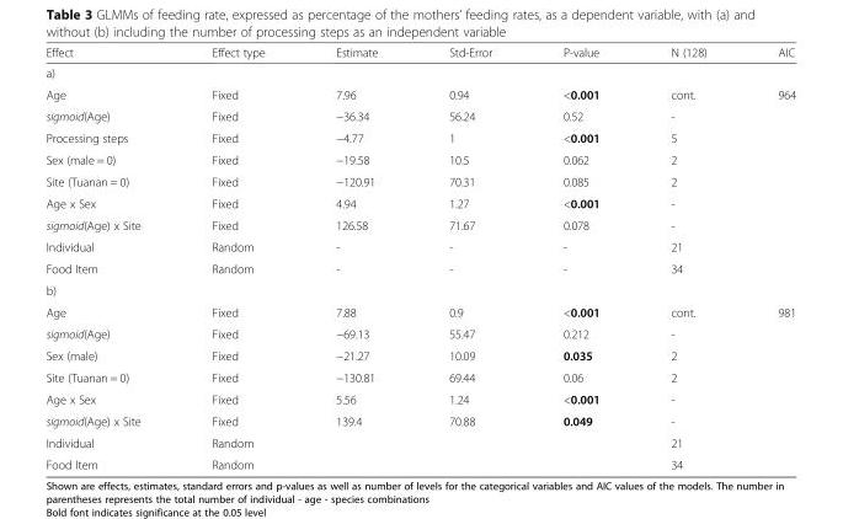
<table><thead><tr><td>Effect</td><td>Effect type</td><td>Estimate</td><td>Std-Error</td><td>P-value</td><td>N (128)</td><td>AIC</td></tr></thead><tbody><tr><td colspan="7">a)</td></tr><tr><td>Age</td><td>Fixed</td><td>7.96</td><td>0.94</td><td>&lt;0.001</td><td>cont.</td><td rowspan="9">964</td></tr><tr><td>sigmoid(Age)</td><td>Fixed</td><td>−36.34</td><td>56.24</td><td>0.52</td><td>-</td></tr><tr><td>Processing steps</td><td>Fixed</td><td>−4.77</td><td>1</td><td>&lt;0.001</td><td>5</td></tr><tr><td>Sex (male = 0)</td><td>Fixed</td><td>−19.58</td><td>10.5</td><td>0.062</td><td>2</td></tr><tr><td>Site (Tuanan = 0)</td><td>Fixed</td><td>−120.91</td><td>70.31</td><td>0.085</td><td>2</td></tr><tr><td>Age x Sex</td><td>Fixed</td><td>4.94</td><td>1.27</td><td>&lt;0.001</td><td>-</td></tr><tr><td>sigmoid(Age) x Site</td><td>Fixed</td><td>126.58</td><td>71.67</td><td>0.078</td><td>-</td></tr><tr><td>Individual</td><td>Random</td><td>-</td><td>-</td><td>-</td><td>21</td></tr><tr><td>Food Item</td><td>Random</td><td>-</td><td>-</td><td>-</td><td>34</td></tr><tr><td colspan="7">b)</td></tr><tr><td>Age</td><td>Fixed</td><td>7.88</td><td>0.9</td><td>&lt;0.001</td><td>cont.</td><td rowspan="8">981</td></tr><tr><td>sigmoid(Age)</td><td>Fixed</td><td>−69.13</td><td>55.47</td><td>0.212</td><td>-</td></tr><tr><td>Sex (male)</td><td>Fixed</td><td>−21.27</td><td>10.09</td><td>0.035</td><td>2</td></tr><tr><td>Site (Tuanan = 0)</td><td>Fixed</td><td>−130.81</td><td>69.44</td><td>0.06</td><td>2</td></tr><tr><td>Age x Sex</td><td>Fixed</td><td>5.56</td><td>1.24</td><td>&lt;0.001</td><td>-</td></tr><tr><td>sigmoid(Age) x Site</td><td>Fixed</td><td>139.4</td><td>70.88</td><td>0.049</td><td>-</td></tr><tr><td>Individual</td><td>Random</td><td></td><td></td><td></td><td>21</td></tr><tr><td>Food Item</td><td>Random</td><td></td><td></td><td></td><td>34</td></tr></tbody></table>